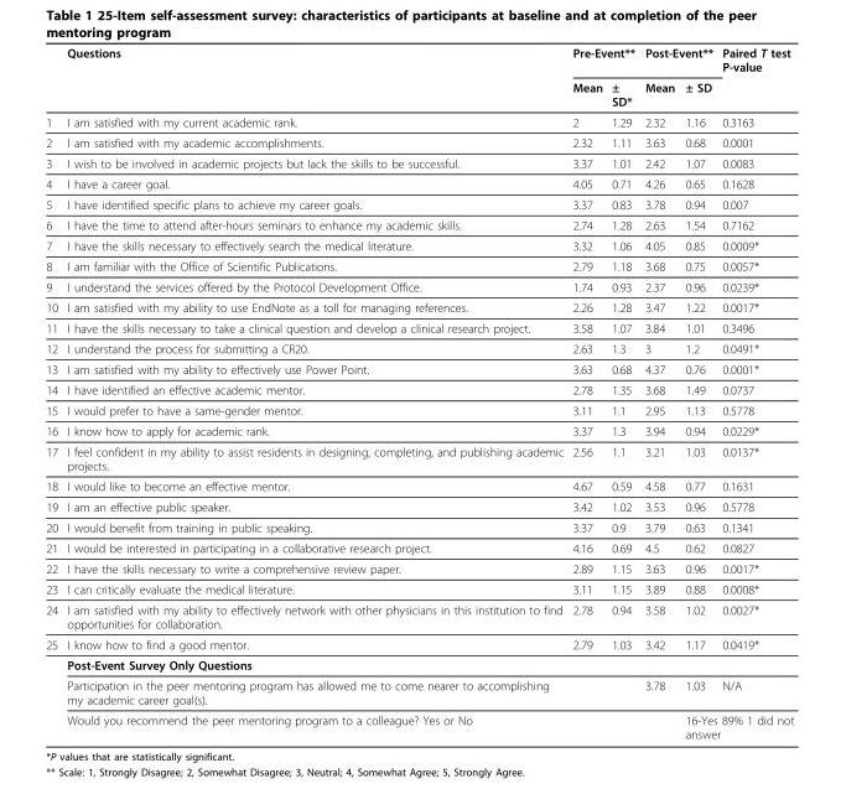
<table><thead><tr><td rowspan="2"></td><td rowspan="2">Questions</td><td colspan="2">Pre-Event**</td><td colspan="2">Post-Event**</td><td rowspan="2">Paired T test P-value</td></tr><tr><td>Mean</td><td>± SD*</td><td>Mean</td><td>± SD</td></tr></thead><tbody><tr><td>1</td><td>I am satisfied with my current academic rank.</td><td>2</td><td>1.29</td><td>2.32</td><td>1.16</td><td>0.3163</td></tr><tr><td>2</td><td>I am satisfied with my academic accomplishments.</td><td>2.32</td><td>1.11</td><td>3.63</td><td>0.68</td><td>0.0001</td></tr><tr><td>3</td><td>I wish to be involved in academic projects but lack the skills to be successful.</td><td>3.37</td><td>1.01</td><td>2.42</td><td>1.07</td><td>0.0083</td></tr><tr><td>4</td><td>I have a career goal.</td><td>4.05</td><td>0.71</td><td>4.26</td><td>0.65</td><td>0.1628</td></tr><tr><td>5</td><td>I have identified specific plans to achieve my career goals.</td><td>3.37</td><td>0.83</td><td>3.78</td><td>0.94</td><td>0.007</td></tr><tr><td>6</td><td>I have the time to attend after-hours seminars to enhance my academic skills.</td><td>2.74</td><td>1.28</td><td>2.63</td><td>1.54</td><td>0.7162</td></tr><tr><td>7</td><td>I have the skills necessary to effectively search the medical literature.</td><td>3.32</td><td>1.06</td><td>4.05</td><td>0.85</td><td>0.0009*</td></tr><tr><td>8</td><td>I am familiar with the Office of Scientific Publications.</td><td>2.79</td><td>1.18</td><td>3.68</td><td>0.75</td><td>0.0057*</td></tr><tr><td>9</td><td>I understand the services offered by the Protocol Development Office.</td><td>1.74</td><td>0.93</td><td>2.37</td><td>0.96</td><td>0.0239*</td></tr><tr><td>10</td><td>I am satisfied with my ability to use EndNote as a toll for managing references.</td><td>2.26</td><td>1.28</td><td>3.47</td><td>1.22</td><td>0.0017*</td></tr><tr><td>11</td><td>I have the skills necessary to take a clinical question and develop a clinical research project.</td><td>3.58</td><td>1.07</td><td>3.84</td><td>1.01</td><td>0.3496</td></tr><tr><td>12</td><td>I understand the process for submitting a CR20.</td><td>2.63</td><td>1.3</td><td>3</td><td>1.2</td><td>0.0491*</td></tr><tr><td>13</td><td>I am satisfied with my ability to effectively use Power Point.</td><td>3.63</td><td>0.68</td><td>4.37</td><td>0.76</td><td>0.0001*</td></tr><tr><td>14</td><td>I have identified an effective academic mentor.</td><td>2.78</td><td>1.35</td><td>3.68</td><td>1.49</td><td>0.0737</td></tr><tr><td>15</td><td>I would prefer to have a same-gender mentor.</td><td>3.11</td><td>1.1</td><td>2.95</td><td>1.13</td><td>0.5778</td></tr><tr><td>16</td><td>I know how to apply for academic rank.</td><td>3.37</td><td>1.3</td><td>3.94</td><td>0.94</td><td>0.0229*</td></tr><tr><td>17</td><td>I feel confident in my ability to assist residents in designing, completing, and publishing academic projects.</td><td>2.56</td><td>1.1</td><td>3.21</td><td>1.03</td><td>0.0137*</td></tr><tr><td>18</td><td>I would like to become an effective mentor.</td><td>4.67</td><td>0.59</td><td>4.58</td><td>0.77</td><td>0.1631</td></tr><tr><td>19</td><td>I am an effective public speaker.</td><td>3.42</td><td>1.02</td><td>3.53</td><td>0.96</td><td>0.5778</td></tr><tr><td>20</td><td>I would benefit from training in public speaking.</td><td>3.37</td><td>0.9</td><td>3.79</td><td>0.63</td><td>0.1341</td></tr><tr><td>21</td><td>I would be interested in participating in a collaborative research project.</td><td>4.16</td><td>0.69</td><td>4.5</td><td>0.62</td><td>0.0827</td></tr><tr><td>22</td><td>I have the skills necessary to write a comprehensive review paper.</td><td>2.89</td><td>1.15</td><td>3.63</td><td>0.96</td><td>0.0017*</td></tr><tr><td>23</td><td>I can critically evaluate the medical literature.</td><td>3.11</td><td>1.15</td><td>3.89</td><td>0.88</td><td>0.0008*</td></tr><tr><td>24</td><td>I am satisfied with my ability to effectively network with other physicians in this institution to find opportunities for collaboration.</td><td>2.78</td><td>0.94</td><td>3.58</td><td>1.02</td><td>0.0027*</td></tr><tr><td rowspan="4">25</td><td>I know how to find a good mentor.</td><td>2.79</td><td>1.03</td><td>3.42</td><td>1.17</td><td>0.0419*</td></tr><tr><td colspan="6">Post-Event Survey Only Questions</td></tr><tr><td>Participation in the peer mentoring program has allowed me to come nearer to accomplishing my academic career goal(s).</td><td></td><td></td><td>3.78</td><td>1.03</td><td>N/A</td></tr><tr><td>Would you recommend the peer mentoring program to a colleague? Yes or No</td><td></td><td></td><td></td><td colspan="2">16-Yes 89% 1 did not answer</td></tr></tbody></table>